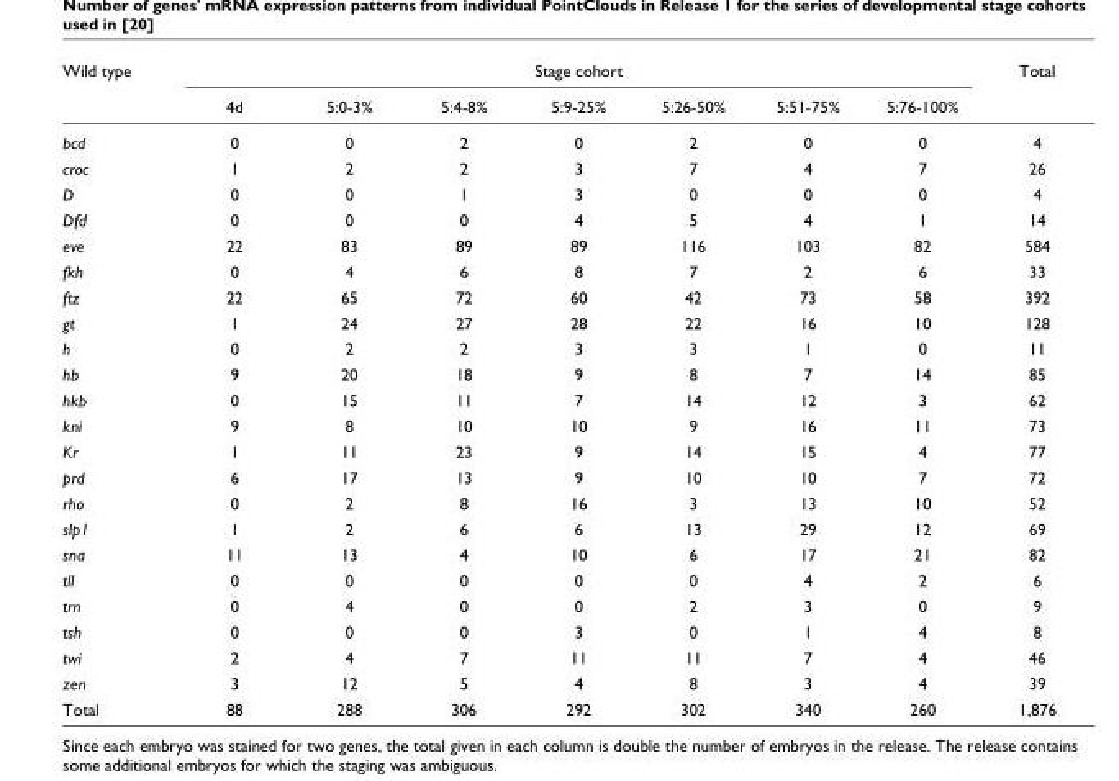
<table><thead><tr><td rowspan="2">Wild type</td><td colspan="7">Stage cohort</td><td rowspan="2">Total</td></tr><tr><td>4d</td><td>5:0-3%</td><td>5:4-8%</td><td>5:9-25%</td><td>5:26-50%</td><td>5:51-75%</td><td>5:76-100%</td></tr></thead><tbody><tr><td>bcd</td><td>0</td><td>0</td><td>2</td><td>0</td><td>2</td><td>0</td><td>0</td><td>4</td></tr><tr><td>croc</td><td>1</td><td>2</td><td>2</td><td>3</td><td>7</td><td>4</td><td>7</td><td>26</td></tr><tr><td>D</td><td>0</td><td>0</td><td>1</td><td>3</td><td>0</td><td>0</td><td>0</td><td>4</td></tr><tr><td>Dfd</td><td>0</td><td>0</td><td>0</td><td>4</td><td>5</td><td>4</td><td>1</td><td>14</td></tr><tr><td>eve</td><td>22</td><td>83</td><td>89</td><td>89</td><td>116</td><td>103</td><td>82</td><td>584</td></tr><tr><td>fkh</td><td>0</td><td>4</td><td>6</td><td>8</td><td>7</td><td>2</td><td>6</td><td>33</td></tr><tr><td>ftz</td><td>22</td><td>65</td><td>72</td><td>60</td><td>42</td><td>73</td><td>58</td><td>392</td></tr><tr><td>gt</td><td>1</td><td>24</td><td>27</td><td>28</td><td>22</td><td>16</td><td>10</td><td>128</td></tr><tr><td>h</td><td>0</td><td>2</td><td>2</td><td>3</td><td>3</td><td>1</td><td>0</td><td>11</td></tr><tr><td>hb</td><td>9</td><td>20</td><td>18</td><td>9</td><td>8</td><td>7</td><td>14</td><td>85</td></tr><tr><td>hkb</td><td>0</td><td>15</td><td>11</td><td>7</td><td>14</td><td>12</td><td>3</td><td>62</td></tr><tr><td>kni</td><td>9</td><td>8</td><td>10</td><td>10</td><td>9</td><td>16</td><td>11</td><td>73</td></tr><tr><td>Kr</td><td>1</td><td>11</td><td>23</td><td>9</td><td>14</td><td>15</td><td>4</td><td>77</td></tr><tr><td>prd</td><td>6</td><td>17</td><td>13</td><td>9</td><td>10</td><td>10</td><td>7</td><td>72</td></tr><tr><td>rho</td><td>0</td><td>2</td><td>8</td><td>16</td><td>3</td><td>13</td><td>10</td><td>52</td></tr><tr><td>slp1</td><td>1</td><td>2</td><td>6</td><td>6</td><td>13</td><td>29</td><td>12</td><td>69</td></tr><tr><td>sna</td><td>11</td><td>13</td><td>4</td><td>10</td><td>6</td><td>17</td><td>21</td><td>82</td></tr><tr><td>tll</td><td>0</td><td>0</td><td>0</td><td>0</td><td>0</td><td>4</td><td>2</td><td>6</td></tr><tr><td>trn</td><td>0</td><td>4</td><td>0</td><td>0</td><td>2</td><td>3</td><td>0</td><td>9</td></tr><tr><td>tsh</td><td>0</td><td>0</td><td>0</td><td>3</td><td>0</td><td>1</td><td>4</td><td>8</td></tr><tr><td>twi</td><td>2</td><td>4</td><td>7</td><td>11</td><td>11</td><td>7</td><td>4</td><td>46</td></tr><tr><td>zen</td><td>3</td><td>12</td><td>5</td><td>4</td><td>8</td><td>3</td><td>4</td><td>39</td></tr><tr><td>Total</td><td>88</td><td>288</td><td>306</td><td>292</td><td>302</td><td>340</td><td>260</td><td>1,876</td></tr></tbody></table>